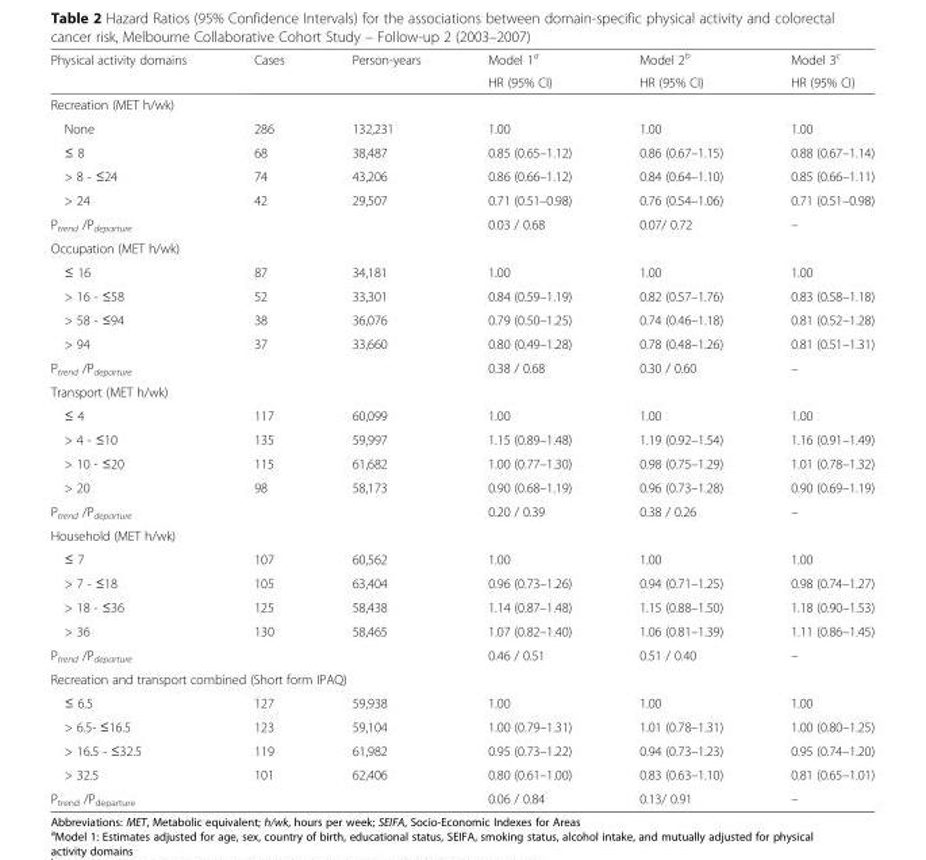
<table><thead><tr><td rowspan="2">Physical activity domains</td><td rowspan="2">Cases</td><td rowspan="2">Person-years</td><td rowspan="2">Model 1<sup>a</sup> HR (95% CI)</td><td rowspan="2">Model 2<sup>b</sup> HR (95% CI)</td><td rowspan="2">Model 3<sup>c</sup> HR (95% CI)</td></tr><tr></tr></thead><tbody><tr><td colspan="6">Recreation (MET h/wk)</td></tr><tr><td>None</td><td>286</td><td>132,231</td><td>1.00</td><td>1.00</td><td>1.00</td></tr><tr><td>≤ 8</td><td>68</td><td>38,487</td><td>0.85 (0.65–1.12)</td><td>0.86 (0.67–1.15)</td><td>0.88 (0.67–1.14)</td></tr><tr><td>&gt; 8 - ≤24</td><td>74</td><td>43,206</td><td>0.86 (0.66–1.12)</td><td>0.84 (0.64–1.10)</td><td>0.85 (0.66–1.11)</td></tr><tr><td>&gt; 24</td><td>42</td><td>29,507</td><td>0.71 (0.51–0.98)</td><td>0.76 (0.54–1.06)</td><td>0.71 (0.51–0.98)</td></tr><tr><td>P<sub>trend</sub> /P<sub>departure</sub></td><td></td><td></td><td>0.03 / 0.68</td><td>0.07/ 0.72</td><td>–</td></tr><tr><td colspan="6">Occupation (MET h/wk)</td></tr><tr><td>≤ 16</td><td>87</td><td>34,181</td><td>1.00</td><td>1.00</td><td>1.00</td></tr><tr><td>&gt; 16 - ≤58</td><td>52</td><td>33,301</td><td>0.84 (0.59–1.19)</td><td>0.82 (0.57–1.76)</td><td>0.83 (0.58–1.18)</td></tr><tr><td>&gt; 58 - ≤94</td><td>38</td><td>36,076</td><td>0.79 (0.50–1.25)</td><td>0.74 (0.46–1.18)</td><td>0.81 (0.52–1.28)</td></tr><tr><td>&gt; 94</td><td>37</td><td>33,660</td><td>0.80 (0.49–1.28)</td><td>0.78 (0.48–1.26)</td><td>0.81 (0.51–1.31)</td></tr><tr><td>P<sub>trend</sub> /P<sub>departure</sub></td><td></td><td></td><td>0.38 / 0.68</td><td>0.30 / 0.60</td><td>–</td></tr><tr><td colspan="6">Transport (MET h/wk)</td></tr><tr><td>≤ 4</td><td>117</td><td>60,099</td><td>1.00</td><td>1.00</td><td>1.00</td></tr><tr><td>&gt; 4 - ≤10</td><td>135</td><td>59,997</td><td>1.15 (0.89–1.48)</td><td>1.19 (0.92–1.54)</td><td>1.16 (0.91–1.49)</td></tr><tr><td>&gt; 10 - ≤20</td><td>115</td><td>61,682</td><td>1.00 (0.77–1.30)</td><td>0.98 (0.75–1.29)</td><td>1.01 (0.78–1.32)</td></tr><tr><td>&gt; 20</td><td>98</td><td>58,173</td><td>0.90 (0.68–1.19)</td><td>0.96 (0.73–1.28)</td><td>0.90 (0.69–1.19)</td></tr><tr><td>P<sub>trend</sub> /P<sub>departure</sub></td><td></td><td></td><td>0.20 / 0.39</td><td>0.38 / 0.26</td><td>–</td></tr><tr><td colspan="6">Household (MET h/wk)</td></tr><tr><td>≤ 7</td><td>107</td><td>60,562</td><td>1.00</td><td>1.00</td><td>1.00</td></tr><tr><td>&gt; 7 - ≤18</td><td>105</td><td>63,404</td><td>0.96 (0.73–1.26)</td><td>0.94 (0.71–1.25)</td><td>0.98 (0.74–1.27)</td></tr><tr><td>&gt; 18 - ≤36</td><td>125</td><td>58,438</td><td>1.14 (0.87–1.48)</td><td>1.15 (0.88–1.50)</td><td>1.18 (0.90–1.53)</td></tr><tr><td>&gt; 36</td><td>130</td><td>58,465</td><td>1.07 (0.82–1.40)</td><td>1.06 (0.81–1.39)</td><td>1.11 (0.86–1.45)</td></tr><tr><td>P<sub>trend</sub> /P<sub>departure</sub></td><td></td><td></td><td>0.46 / 0.51</td><td>0.51 / 0.40</td><td>–</td></tr><tr><td colspan="6">Recreation and transport combined (Short form IPAQ)</td></tr><tr><td>≤ 6.5</td><td>127</td><td>59,938</td><td>1.00</td><td>1.00</td><td>1.00</td></tr><tr><td>&gt; 6.5- ≤16.5</td><td>123</td><td>59,104</td><td>1.00 (0.79–1.31)</td><td>1.01 (0.78–1.31)</td><td>1.00 (0.80–1.25)</td></tr><tr><td>&gt; 16.5 - ≤32.5</td><td>119</td><td>61,982</td><td>0.95 (0.73–1.22)</td><td>0.94 (0.73–1.23)</td><td>0.95 (0.74–1.20)</td></tr><tr><td>&gt; 32.5</td><td>101</td><td>62,406</td><td>0.80 (0.61–1.00)</td><td>0.83 (0.63–1.10)</td><td>0.81 (0.65–1.01)</td></tr><tr><td>P<sub>trend</sub> /P<sub>departure</sub></td><td></td><td></td><td>0.06 / 0.84</td><td>0.13/ 0.91</td><td>–</td></tr></tbody></table>